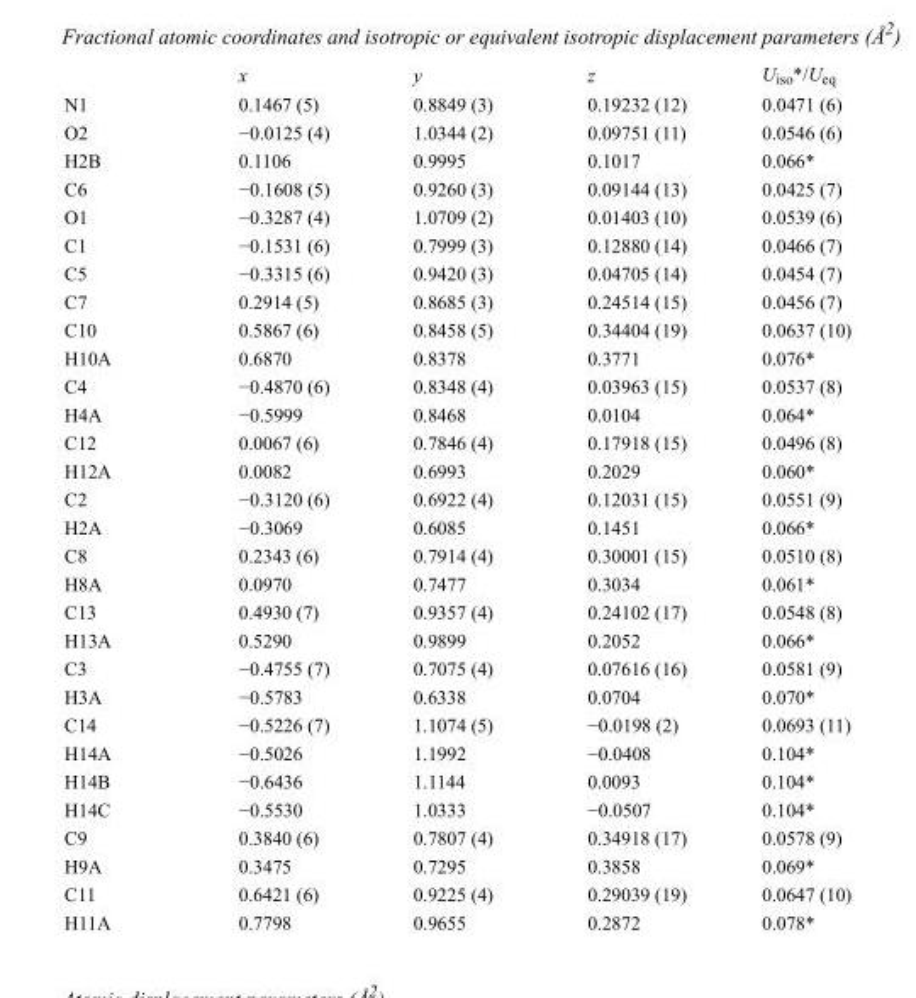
<table><thead><tr><td></td><td>x</td><td>y</td><td>z</td><td>U<sub>iso</sub>*/U<sub>eq</sub></td></tr></thead><tbody><tr><td>N1</td><td>0.1467 (5)</td><td>0.8849 (3)</td><td>0.19232 (12)</td><td>0.0471 (6)</td></tr><tr><td>O2</td><td>−0.0125 (4)</td><td>1.0344 (2)</td><td>0.09751 (11)</td><td>0.0546 (6)</td></tr><tr><td>H2B</td><td>0.1106</td><td>0.9995</td><td>0.1017</td><td>0.066*</td></tr><tr><td>C6</td><td>−0.1608 (5)</td><td>0.9260 (3)</td><td>0.09144 (13)</td><td>0.0425 (7)</td></tr><tr><td>O1</td><td>−0.3287 (4)</td><td>1.0709 (2)</td><td>0.01403 (10)</td><td>0.0539 (6)</td></tr><tr><td>C1</td><td>−0.1531 (6)</td><td>0.7999 (3)</td><td>0.12880 (14)</td><td>0.0466 (7)</td></tr><tr><td>C5</td><td>−0.3315 (6)</td><td>0.9420 (3)</td><td>0.04705 (14)</td><td>0.0454 (7)</td></tr><tr><td>C7</td><td>0.2914 (5)</td><td>0.8685 (3)</td><td>0.24514 (15)</td><td>0.0456 (7)</td></tr><tr><td>C10</td><td>0.5867 (6)</td><td>0.8458 (5)</td><td>0.34404 (19)</td><td>0.0637 (10)</td></tr><tr><td>H10A</td><td>0.6870</td><td>0.8378</td><td>0.3771</td><td>0.076*</td></tr><tr><td>C4</td><td>−0.4870 (6)</td><td>0.8348 (4)</td><td>0.03963 (15)</td><td>0.0537 (8)</td></tr><tr><td>H4A</td><td>−0.5999</td><td>0.8468</td><td>0.0104</td><td>0.064*</td></tr><tr><td>C12</td><td>0.0067 (6)</td><td>0.7846 (4)</td><td>0.17918 (15)</td><td>0.0496 (8)</td></tr><tr><td>H12A</td><td>0.0082</td><td>0.6993</td><td>0.2029</td><td>0.060*</td></tr><tr><td>C2</td><td>−0.3120 (6)</td><td>0.6922 (4)</td><td>0.12031 (15)</td><td>0.0551 (9)</td></tr><tr><td>H2A</td><td>−0.3069</td><td>0.6085</td><td>0.1451</td><td>0.066*</td></tr><tr><td>C8</td><td>0.2343 (6)</td><td>0.7914 (4)</td><td>0.30001 (15)</td><td>0.0510 (8)</td></tr><tr><td>H8A</td><td>0.0970</td><td>0.7477</td><td>0.3034</td><td>0.061*</td></tr><tr><td>C13</td><td>0.4930 (7)</td><td>0.9357 (4)</td><td>0.24102 (17)</td><td>0.0548 (8)</td></tr><tr><td>H13A</td><td>0.5290</td><td>0.9899</td><td>0.2052</td><td>0.066*</td></tr><tr><td>C3</td><td>−0.4755 (7)</td><td>0.7075 (4)</td><td>0.07616 (16)</td><td>0.0581 (9)</td></tr><tr><td>H3A</td><td>−0.5783</td><td>0.6338</td><td>0.0704</td><td>0.070*</td></tr><tr><td>C14</td><td>−0.5226 (7)</td><td>1.1074 (5)</td><td>−0.0198 (2)</td><td>0.0693 (11)</td></tr><tr><td>H14A</td><td>−0.5026</td><td>1.1992</td><td>−0.0408</td><td>0.104*</td></tr><tr><td>H14B</td><td>−0.6436</td><td>1.1144</td><td>0.0093</td><td>0.104*</td></tr><tr><td>H14C</td><td>−0.5530</td><td>1.0333</td><td>−0.0507</td><td>0.104*</td></tr><tr><td>C9</td><td>0.3840 (6)</td><td>0.7807 (4)</td><td>0.34918 (17)</td><td>0.0578 (9)</td></tr><tr><td>H9A</td><td>0.3475</td><td>0.7295</td><td>0.3858</td><td>0.069*</td></tr><tr><td>C11</td><td>0.6421 (6)</td><td>0.9225 (4)</td><td>0.29039 (19)</td><td>0.0647 (10)</td></tr><tr><td>H11A</td><td>0.7798</td><td>0.9655</td><td>0.2872</td><td>0.078*</td></tr></tbody></table>